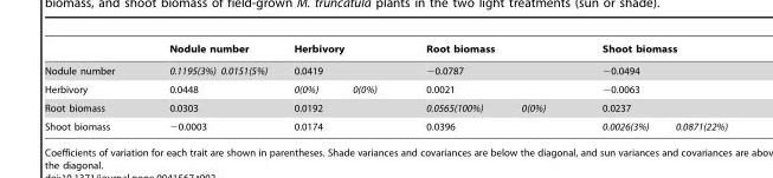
<table><thead><tr><td></td><td colspan="2">Nodule number</td><td colspan="2">Herbivory</td><td colspan="2">Root biomass</td><td colspan="2">Shoot biomass</td></tr></thead><tbody><tr><td>Nodule number</td><td>0.1195(3%)</td><td>0.0151(5%)</td><td colspan="2">0.0419</td><td colspan="2">−0.0787</td><td colspan="2">−0.0494</td></tr><tr><td>Herbivory</td><td colspan="2">0.0448</td><td>0(0%)</td><td>0(0%)</td><td colspan="2">0.0021</td><td colspan="2">−0.0063</td></tr><tr><td>Root biomass</td><td colspan="2">0.0303</td><td colspan="2">0.0192</td><td>0.0565(100%)</td><td>0(0%)</td><td colspan="2">0.0237</td></tr><tr><td>Shoot biomass</td><td colspan="2">−0.0003</td><td colspan="2">0.0174</td><td colspan="2">0.0396</td><td>0.0026(3%)</td><td>0.0871(22%)</td></tr></tbody></table>